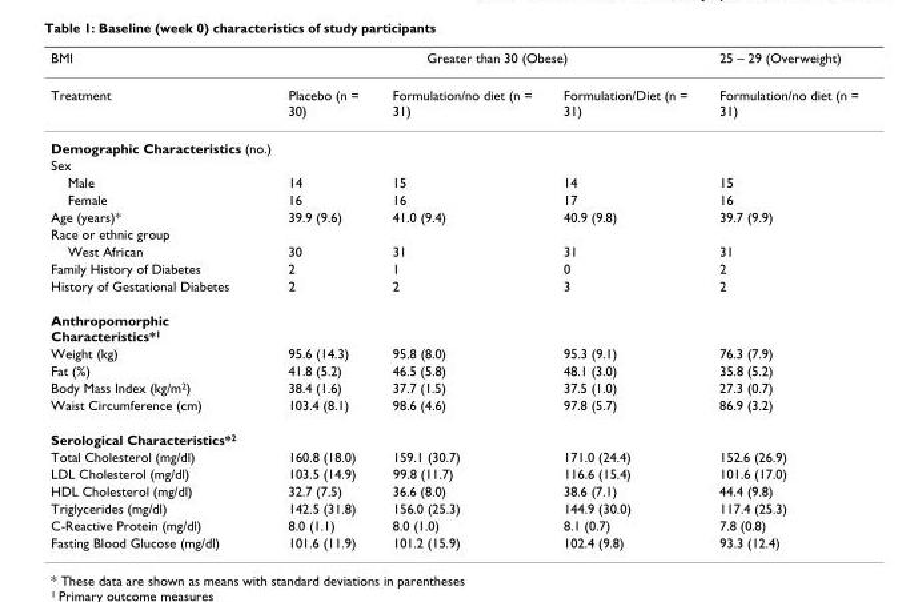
<table><thead><tr><td rowspan="2">BMI Treatment</td><td colspan="3">Greater than 30 (Obese)</td><td rowspan="2">25 – 29 (Overweight) Formulation/no diet (n = 31)</td></tr><tr><td>Placebo (n = 30)</td><td>Formulation/no diet (n = 31)</td><td>Formulation/Diet (n = 31)</td></tr></thead><tbody><tr><td colspan="5">Demographic Characteristics (no.)</td></tr><tr><td colspan="5">Sex</td></tr><tr><td>Male</td><td>14</td><td>15</td><td>14</td><td>15</td></tr><tr><td>Female</td><td>16</td><td>16</td><td>17</td><td>16</td></tr><tr><td>Age (years)*</td><td>39.9 (9.6)</td><td>41.0 (9.4)</td><td>40.9 (9.8)</td><td>39.7 (9.9)</td></tr><tr><td colspan="5">Race or ethnic group</td></tr><tr><td>West African</td><td>30</td><td>31</td><td>31</td><td>31</td></tr><tr><td>Family History of Diabetes</td><td>2</td><td>1</td><td>0</td><td>2</td></tr><tr><td>History of Gestational Diabetes</td><td>2</td><td>2</td><td>3</td><td>2</td></tr><tr><td colspan="5">Anthropomorphic Characteristics*<sup>1</sup></td></tr><tr><td>Weight (kg)</td><td>95.6 (14.3)</td><td>95.8 (8.0)</td><td>95.3 (9.1)</td><td>76.3 (7.9)</td></tr><tr><td>Fat (%)</td><td>41.8 (5.2)</td><td>46.5 (5.8)</td><td>48.1 (3.0)</td><td>35.8 (5.2)</td></tr><tr><td>Body Mass Index (kg/m<sup>2</sup>)</td><td>38.4 (1.6)</td><td>37.7 (1.5)</td><td>37.5 (1.0)</td><td>27.3 (0.7)</td></tr><tr><td>Waist Circumference (cm)</td><td>103.4 (8.1)</td><td>98.6 (4.6)</td><td>97.8 (5.7)</td><td>86.9 (3.2)</td></tr><tr><td colspan="5">Serological Characteristics*<sup>2</sup></td></tr><tr><td>Total Cholesterol (mg/dl)</td><td>160.8 (18.0)</td><td>159.1 (30.7)</td><td>171.0 (24.4)</td><td>152.6 (26.9)</td></tr><tr><td>LDL Cholesterol (mg/dl)</td><td>103.5 (14.9)</td><td>99.8 (11.7)</td><td>116.6 (15.4)</td><td>101.6 (17.0)</td></tr><tr><td>HDL Cholesterol (mg/dl)</td><td>32.7 (7.5)</td><td>36.6 (8.0)</td><td>38.6 (7.1)</td><td>44.4 (9.8)</td></tr><tr><td>Triglycerides (mg/dl)</td><td>142.5 (31.8)</td><td>156.0 (25.3)</td><td>144.9 (30.0)</td><td>117.4 (25.3)</td></tr><tr><td>C-Reactive Protein (mg/dl)</td><td>8.0 (1.1)</td><td>8.0 (1.0)</td><td>8.1 (0.7)</td><td>7.8 (0.8)</td></tr><tr><td>Fasting Blood Glucose (mg/dl)</td><td>101.6 (11.9)</td><td>101.2 (15.9)</td><td>102.4 (9.8)</td><td>93.3 (12.4)</td></tr></tbody></table>